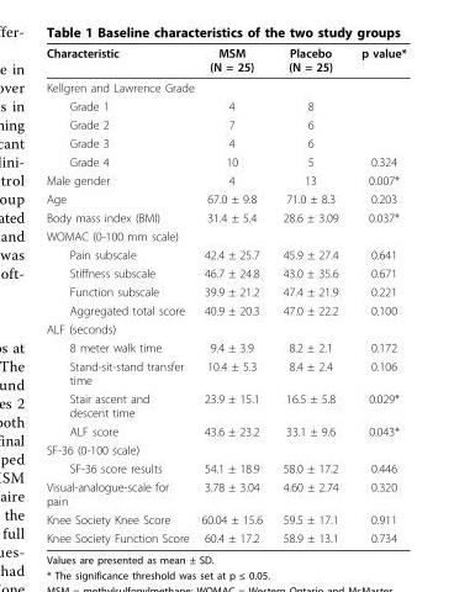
<table><thead><tr><td>Characteristic</td><td>MSM (N = 25)</td><td>Placebo (N = 25)</td><td>p value*</td></tr></thead><tbody><tr><td colspan="4">Kellgren and Lawrence Grade</td></tr><tr><td>Grade 1</td><td>4</td><td>8</td><td></td></tr><tr><td>Grade 2</td><td>7</td><td>6</td><td></td></tr><tr><td>Grade 3</td><td>4</td><td>6</td><td></td></tr><tr><td>Grade 4</td><td>10</td><td>5</td><td>0.324</td></tr><tr><td>Male gender</td><td>4</td><td>13</td><td>0.007*</td></tr><tr><td>Age</td><td>67.0 ± 9.8</td><td>71.0 ± 8.3</td><td>0.203</td></tr><tr><td>Body mass index (BMI)</td><td>31.4 ± 5.4</td><td>28.6 ± 3.09</td><td>0.037*</td></tr><tr><td colspan="4">WOMAC (0-100 mm scale)</td></tr><tr><td>Pain subscale</td><td>42.4 ± 25.7</td><td>45.9 ± 27.4</td><td>0.641</td></tr><tr><td>Stiffness subscale</td><td>46.7 ± 24.8</td><td>43.0 ± 35.6</td><td>0.671</td></tr><tr><td>Function subscale</td><td>39.9 ± 21.2</td><td>47.4 ± 21.9</td><td>0.221</td></tr><tr><td>Aggregated total score</td><td>40.9 ± 20.3</td><td>47.0 ± 22.2</td><td>0.100</td></tr><tr><td colspan="4">ALF (seconds)</td></tr><tr><td>8 meter walk time</td><td>9.4 ± 3.9</td><td>8.2 ± 2.1</td><td>0.172</td></tr><tr><td>Stand-sit-stand transfer time</td><td>10.4 ± 5.3</td><td>8.4 ± 2.4</td><td>0.106</td></tr><tr><td>Stair ascent and descent time</td><td>23.9 ± 15.1</td><td>16.5 ± 5.8</td><td>0.029*</td></tr><tr><td>ALF score</td><td>43.6 ± 23.2</td><td>33.1 ± 9.6</td><td>0.043*</td></tr><tr><td colspan="4">SF-36 (0-100 scale)</td></tr><tr><td>SF-36 score results</td><td>54.1 ± 18.9</td><td>58.0 ± 17.2</td><td>0.446</td></tr><tr><td>Visual-analogue-scale for pain</td><td>3.78 ± 3.04</td><td>4.60 ± 2.74</td><td>0.320</td></tr><tr><td>Knee Society Knee Score</td><td>60.04 ± 15.6</td><td>59.5 ± 17.1</td><td>0.911</td></tr><tr><td>Knee Society Function Score</td><td>60.4 ± 17.2</td><td>58.9 ± 13.1</td><td>0.734</td></tr></tbody></table>